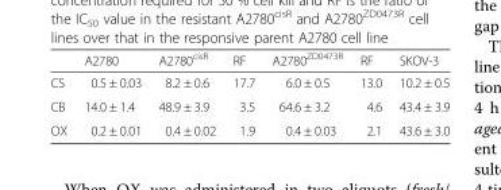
<table><thead><tr><td></td><td>A2780</td><td>A2780<sup>cisR</sup></td><td>RF</td><td>A2780<sup>ZD0473R</sup></td><td>RF</td><td>SKOV-3</td></tr></thead><tbody><tr><td>CS</td><td>0.5 ± 0.03</td><td>8.2 ± 0.6</td><td>17.7</td><td>6.0 ± 0.5</td><td>13.0</td><td>10.2 ± 0.5</td></tr><tr><td>CB</td><td>14.0 ± 1.4</td><td>48.9 ± 3.9</td><td>3.5</td><td>64.6 ± 3.2</td><td>4.6</td><td>43.4 ± 3.9</td></tr><tr><td>OX</td><td>0.2 ± 0.01</td><td>0.4 ± 0.02</td><td>1.9</td><td>0.4 ± 0.03</td><td>2.1</td><td>43.6 ± 3.0</td></tr></tbody></table>